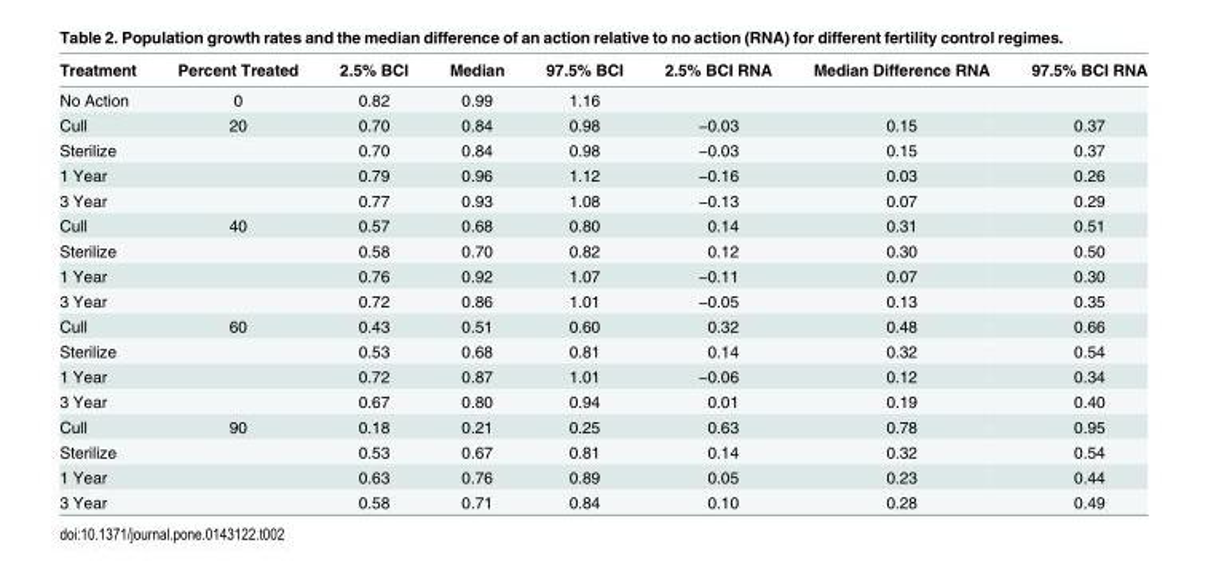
<table><thead><tr><td>Treatment</td><td>Percent Treated</td><td>2.5% BCI</td><td>Median</td><td>97.5% BCI</td><td>2.5% BCI RNA</td><td>Median Difference RNA</td><td>97.5% BCI RNA</td></tr></thead><tbody><tr><td>No Action</td><td>0</td><td>0.82</td><td>0.99</td><td>1.16</td><td></td><td></td><td></td></tr><tr><td>Cull</td><td>20</td><td>0.70</td><td>0.84</td><td>0.98</td><td>−0.03</td><td>0.15</td><td>0.37</td></tr><tr><td>Sterilize</td><td></td><td>0.70</td><td>0.84</td><td>0.98</td><td>−0.03</td><td>0.15</td><td>0.37</td></tr><tr><td>1 Year</td><td></td><td>0.79</td><td>0.96</td><td>1.12</td><td>−0.16</td><td>0.03</td><td>0.26</td></tr><tr><td>3 Year</td><td></td><td>0.77</td><td>0.93</td><td>1.08</td><td>−0.13</td><td>0.07</td><td>0.29</td></tr><tr><td>Cull</td><td>40</td><td>0.57</td><td>0.68</td><td>0.80</td><td>0.14</td><td>0.31</td><td>0.51</td></tr><tr><td>Sterilize</td><td></td><td>0.58</td><td>0.70</td><td>0.82</td><td>0.12</td><td>0.30</td><td>0.50</td></tr><tr><td>1 Year</td><td></td><td>0.76</td><td>0.92</td><td>1.07</td><td>−0.11</td><td>0.07</td><td>0.30</td></tr><tr><td>3 Year</td><td></td><td>0.72</td><td>0.86</td><td>1.01</td><td>−0.05</td><td>0.13</td><td>0.35</td></tr><tr><td>Cull</td><td>60</td><td>0.43</td><td>0.51</td><td>0.60</td><td>0.32</td><td>0.48</td><td>0.66</td></tr><tr><td>Sterilize</td><td></td><td>0.53</td><td>0.68</td><td>0.81</td><td>0.14</td><td>0.32</td><td>0.54</td></tr><tr><td>1 Year</td><td></td><td>0.72</td><td>0.87</td><td>1.01</td><td>−0.06</td><td>0.12</td><td>0.34</td></tr><tr><td>3 Year</td><td></td><td>0.67</td><td>0.80</td><td>0.94</td><td>0.01</td><td>0.19</td><td>0.40</td></tr><tr><td>Cull</td><td>90</td><td>0.18</td><td>0.21</td><td>0.25</td><td>0.63</td><td>0.78</td><td>0.95</td></tr><tr><td>Sterilize</td><td></td><td>0.53</td><td>0.67</td><td>0.81</td><td>0.14</td><td>0.32</td><td>0.54</td></tr><tr><td>1 Year</td><td></td><td>0.63</td><td>0.76</td><td>0.89</td><td>0.05</td><td>0.23</td><td>0.44</td></tr><tr><td>3 Year</td><td></td><td>0.58</td><td>0.71</td><td>0.84</td><td>0.10</td><td>0.28</td><td>0.49</td></tr></tbody></table>